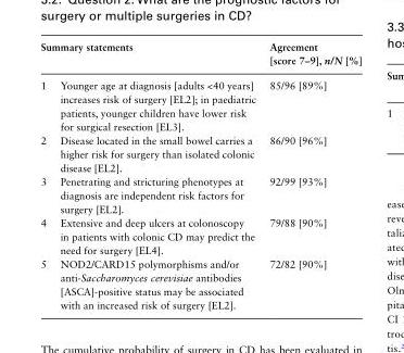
<table><thead><tr><td colspan="2">Summary statements</td><td rowspan="2">Agreement [score 7–9], n/N [%] 85/96 [89%]</td></tr><tr><td>1</td><td>Younger age at diagnosis [adults &lt;40 years] increases risk of surgery [EL2]; in paediatric patients, younger children have lower risk for surgical resection [EL3].</td></tr></thead><tbody><tr><td>2</td><td>Disease located in the small bowel carries a higher risk for surgery than isolated colonic disease [EL2].</td><td>86/90 [96%]</td></tr><tr><td>3</td><td>Penetrating and stricturing phenotypes at diagnosis are independent risk factors for surgery [EL2].</td><td>92/99 [93%]</td></tr><tr><td>4</td><td>Extensive and deep ulcers at colonoscopy in patients with colonic CD may predict the need for surgery [EL4].</td><td>79/88 [90%]</td></tr><tr><td>5</td><td>NOD2/CARD15 polymorphisms and/or anti-Saccharomyces cerevisiae antibodies [ASCA]-positive status may be associated with an increased risk of surgery [EL2].</td><td>72/82 [90%]</td></tr></tbody></table>